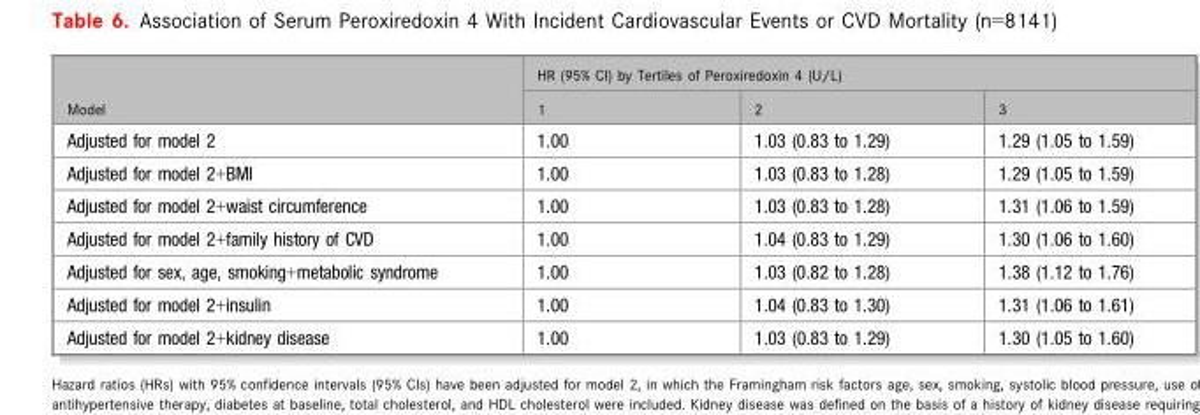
<table><thead><tr><td rowspan="2">Model</td><td colspan="3">HR (95% CI) by Tertiles of Peroxiredoxin 4 (U/L)</td></tr><tr><td>1</td><td>2</td><td>3</td></tr></thead><tbody><tr><td>Adjusted for model 2</td><td>1.00</td><td>1.03 (0.83 to 1.29)</td><td>1.29 (1.05 to 1.59)</td></tr><tr><td>Adjusted for model 2+BMI</td><td>1.00</td><td>1.03 (0.83 to 1.28)</td><td>1.29 (1.05 to 1.59)</td></tr><tr><td>Adjusted for model 2+waist circumference</td><td>1.00</td><td>1.03 (0.83 to 1.28)</td><td>1.31 (1.06 to 1.59)</td></tr><tr><td>Adjusted for model 2+family history of CVD</td><td>1.00</td><td>1.04 (0.83 to 1.29)</td><td>1.30 (1.06 to 1.60)</td></tr><tr><td>Adjusted for sex, age, smoking+metabolic syndrome</td><td>1.00</td><td>1.03 (0.82 to 1.28)</td><td>1.38 (1.12 to 1.76)</td></tr><tr><td>Adjusted for model 2+insulin</td><td>1.00</td><td>1.04 (0.83 to 1.30)</td><td>1.31 (1.06 to 1.61)</td></tr><tr><td>Adjusted for model 2+kidney disease</td><td>1.00</td><td>1.03 (0.83 to 1.29)</td><td>1.30 (1.05 to 1.60)</td></tr></tbody></table>